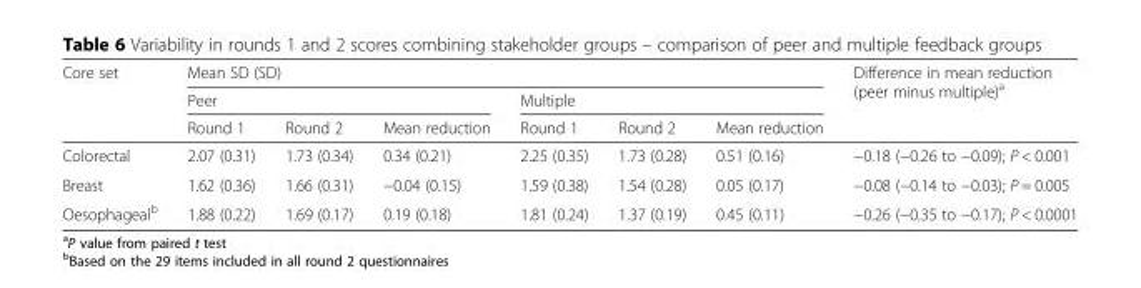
<table><thead><tr><td rowspan="3">Core set</td><td colspan="6">Mean SD (SD)</td><td rowspan="3">Difference in mean reduction (peer minus multiple)<sup>a</sup></td></tr><tr><td colspan="3">Peer</td><td colspan="3">Multiple</td></tr><tr><td>Round 1</td><td>Round 2</td><td>Mean reduction</td><td>Round 1</td><td>Round 2</td><td>Mean reduction</td></tr></thead><tbody><tr><td>Colorectal</td><td>2.07 (0.31)</td><td>1.73 (0.34)</td><td>0.34 (0.21)</td><td>2.25 (0.35)</td><td>1.73 (0.28)</td><td>0.51 (0.16)</td><td>−0.18 (−0.26 to −0.09); P &lt; 0.001</td></tr><tr><td>Breast</td><td>1.62 (0.36)</td><td>1.66 (0.31)</td><td>−0.04 (0.15)</td><td>1.59 (0.38)</td><td>1.54 (0.28)</td><td>0.05 (0.17)</td><td>−0.08 (−0.14 to −0.03); P = 0.005</td></tr><tr><td>Oesophageal<sup>b</sup></td><td>1.88 (0.22)</td><td>1.69 (0.17)</td><td>0.19 (0.18)</td><td>1.81 (0.24)</td><td>1.37 (0.19)</td><td>0.45 (0.11)</td><td>−0.26 (−0.35 to −0.17); P &lt; 0.0001</td></tr></tbody></table>